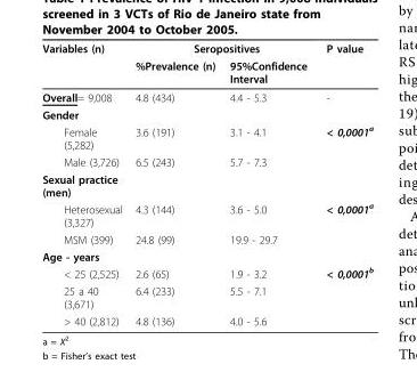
<table><thead><tr><td rowspan="2">Variables (n)</td><td colspan="2">Seropositives</td><td rowspan="2">P value</td></tr><tr><td>%Prevalence (n)</td><td>95%Confidence Interval</td></tr></thead><tbody><tr><td>Overall= 9,008</td><td>4.8 (434)</td><td>4.4 - 5.3</td><td>-</td></tr><tr><td colspan="4">Gender</td></tr><tr><td>Female (5,282)</td><td>3.6 (191)</td><td>3.1 - 4.1</td><td>&lt; 0,0001<sup>a</sup></td></tr><tr><td>Male (3,726)</td><td>6.5 (243)</td><td>5.7 - 7.3</td><td></td></tr><tr><td colspan="4">Sexual practice (men)</td></tr><tr><td>Heterosexual (3,327)</td><td>4.3 (144)</td><td>3.6 - 5.0</td><td>&lt; 0,0001<sup>a</sup></td></tr><tr><td>MSM (399)</td><td>24.8 (99)</td><td>19.9 - 29.7</td><td></td></tr><tr><td colspan="4">Age - years</td></tr><tr><td>&lt; 25 (2,525)</td><td>2.6 (65)</td><td>1.9 - 3.2</td><td>&lt; 0,0001<sup>b</sup></td></tr><tr><td>25 a 40 (3,671)</td><td>6.4 (233)</td><td>5.5 - 7.1</td><td></td></tr><tr><td>&gt; 40 (2,812)</td><td>4.8 (136)</td><td>4.0 - 5.6</td><td></td></tr></tbody></table>